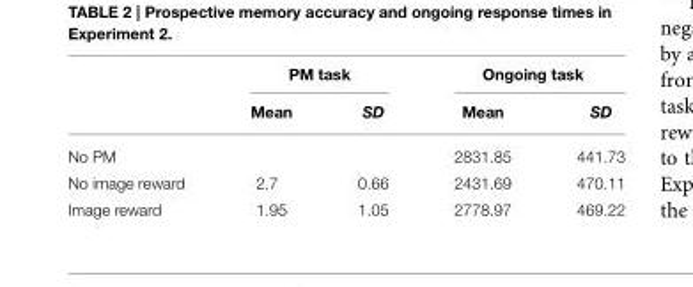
<table><thead><tr><td rowspan="2"></td><td colspan="2">PM task</td><td colspan="2">Ongoing task</td></tr><tr><td>Mean</td><td>SD</td><td>Mean</td><td>SD</td></tr></thead><tbody><tr><td>No PM</td><td></td><td></td><td>2831.85</td><td>441.73</td></tr><tr><td>No image reward</td><td>2.7</td><td>0.66</td><td>2431.69</td><td>470.11</td></tr><tr><td>Image reward</td><td>1.95</td><td>1.05</td><td>2778.97</td><td>469.22</td></tr></tbody></table>